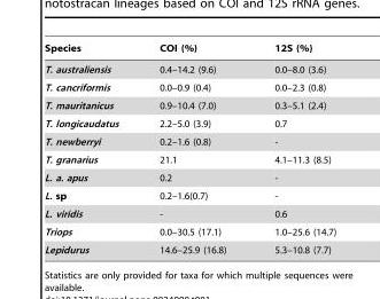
<table><thead><tr><td>Species</td><td>COI (%)</td><td>12S (%)</td></tr></thead><tbody><tr><td>T. australiensis</td><td>0.4–14.2 (9.6)</td><td>0.0–8.0 (3.6)</td></tr><tr><td>T. cancriformis</td><td>0.0–0.9 (0.4)</td><td>0.0–2.3 (0.8)</td></tr><tr><td>T. mauritanicus</td><td>0.9–10.4 (7.0)</td><td>0.3–5.1 (2.4)</td></tr><tr><td>T. longicaudatus</td><td>2.2–5.0 (3.9)</td><td>0.7</td></tr><tr><td>T. newberryi</td><td>0.2–1.6 (0.8)</td><td>-</td></tr><tr><td>T. granarius</td><td>21.1</td><td>4.1–11.3 (8.5)</td></tr><tr><td>L. a. apus</td><td>0.2</td><td>-</td></tr><tr><td>L. sp</td><td>0.2–1.6(0.7)</td><td>-</td></tr><tr><td>L. viridis</td><td>-</td><td>0.6</td></tr><tr><td>Triops</td><td>0.0–30.5 (17.1)</td><td>1.0–25.6 (14.7)</td></tr><tr><td>Lepidurus</td><td>14.6–25.9 (16.8)</td><td>5.3–10.8 (7.7)</td></tr></tbody></table>